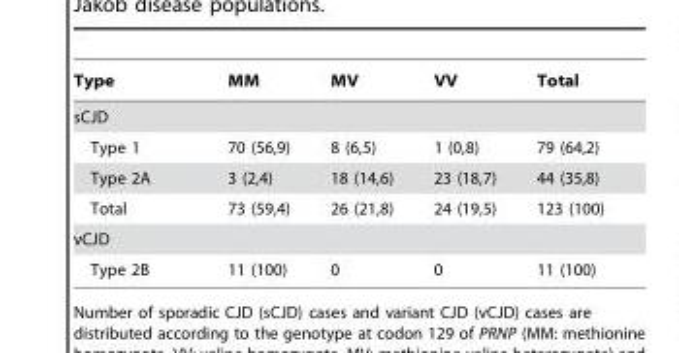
<table><thead><tr><td>Type</td><td>MM</td><td>MV</td><td>VV</td><td>Total</td></tr></thead><tbody><tr><td colspan="5">sCJD</td></tr><tr><td>Type 1</td><td>70 (56,9)</td><td>8 (6,5)</td><td>1 (0,8)</td><td>79 (64,2)</td></tr><tr><td>Type 2A</td><td>3 (2,4)</td><td>18 (14,6)</td><td>23 (18,7)</td><td>44 (35,8)</td></tr><tr><td>Total</td><td>73 (59,4)</td><td>26 (21,8)</td><td>24 (19,5)</td><td>123 (100)</td></tr><tr><td colspan="5">vCJD</td></tr><tr><td>Type 2B</td><td>11 (100)</td><td>0</td><td>0</td><td>11 (100)</td></tr></tbody></table>